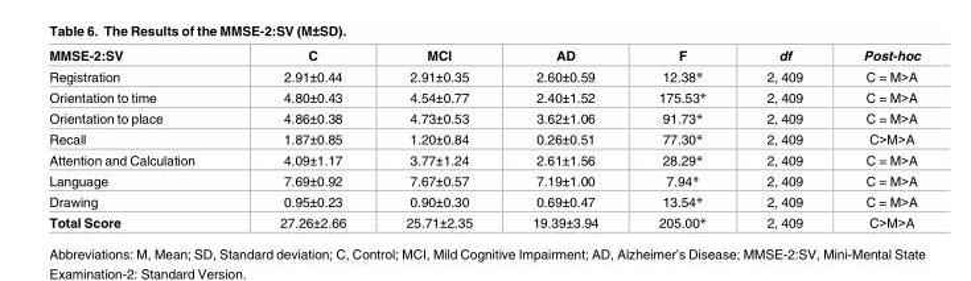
<table><thead><tr><td>MMSE-2:SV</td><td>C</td><td>MCI</td><td>AD</td><td>F</td><td>df</td><td>Post-hoc</td></tr></thead><tbody><tr><td>Registration</td><td>2.91±0.44</td><td>2.91±0.35</td><td>2.60±0.59</td><td>12.38*</td><td>2, 409</td><td>C = M&gt;A</td></tr><tr><td>Orientation to time</td><td>4.80±0.43</td><td>4.54±0.77</td><td>2.40±1.52</td><td>175.53*</td><td>2, 409</td><td>C = M&gt;A</td></tr><tr><td>Orientation to place</td><td>4.86±0.38</td><td>4.73±0.53</td><td>3.62±1.06</td><td>91.73*</td><td>2, 409</td><td>C = M&gt;A</td></tr><tr><td>Recall</td><td>1.87±0.85</td><td>1.20±0.84</td><td>0.26±0.51</td><td>77.30*</td><td>2, 409</td><td>C&gt;M&gt;A</td></tr><tr><td>Attention and Calculation</td><td>4.09±1.17</td><td>3.77±1.24</td><td>2.61±1.56</td><td>28.29*</td><td>2, 409</td><td>C = M&gt;A</td></tr><tr><td>Language</td><td>7.69±0.92</td><td>7.67±0.57</td><td>7.19±1.00</td><td>7.94*</td><td>2, 409</td><td>C = M&gt;A</td></tr><tr><td>Drawing</td><td>0.95±0.23</td><td>0.90±0.30</td><td>0.69±0.47</td><td>13.54*</td><td>2, 409</td><td>C = M&gt;A</td></tr><tr><td>Total Score</td><td>27.26±2.66</td><td>25.71±2.35</td><td>19.39±3.94</td><td>205.00*</td><td>2, 409</td><td>C&gt;M&gt;A</td></tr></tbody></table>